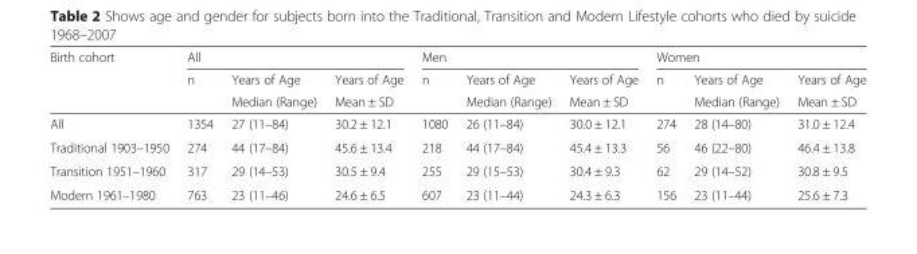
<table><thead><tr><td rowspan="3">Birth cohort</td><td colspan="3">All</td><td colspan="3">Men</td><td colspan="3">Women</td></tr><tr><td rowspan="2">n</td><td rowspan="2">Years of Age Median (Range)</td><td rowspan="2">Years of Age Mean ± SD</td><td rowspan="2">n</td><td rowspan="2">Years of Age Median (Range)</td><td rowspan="2">Years of Age Mean ± SD</td><td rowspan="2">n</td><td rowspan="2">Years of Age Median (Range)</td><td rowspan="2">Years of Age Mean ± SD</td></tr><tr></tr></thead><tbody><tr><td>All</td><td>1354</td><td>27 (11–84)</td><td>30.2 ± 12.1</td><td>1080</td><td>26 (11–84)</td><td>30.0 ± 12.1</td><td>274</td><td>28 (14–80)</td><td>31.0 ± 12.4</td></tr><tr><td>Traditional 1903–1950</td><td>274</td><td>44 (17–84)</td><td>45.6 ± 13.4</td><td>218</td><td>44 (17–84)</td><td>45.4 ± 13.3</td><td>56</td><td>46 (22–80)</td><td>46.4 ± 13.8</td></tr><tr><td>Transition 1951–1960</td><td>317</td><td>29 (14–53)</td><td>30.5 ± 9.4</td><td>255</td><td>29 (15–53)</td><td>30.4 ± 9.3</td><td>62</td><td>29 (14–52)</td><td>30.8 ± 9.5</td></tr><tr><td>Modern 1961–1980</td><td>763</td><td>23 (11–46)</td><td>24.6 ± 6.5</td><td>607</td><td>23 (11–44)</td><td>24.3 ± 6.3</td><td>156</td><td>23 (11–44)</td><td>25.6 ± 7.3</td></tr></tbody></table>